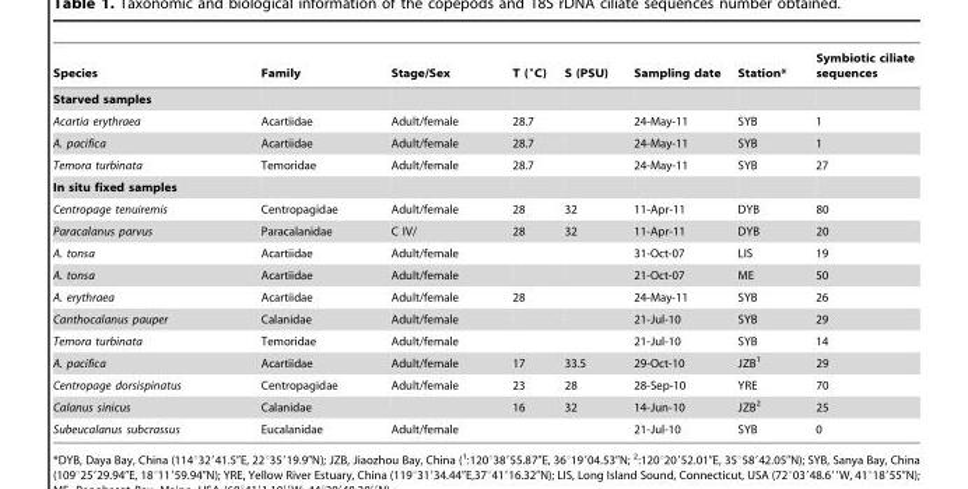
<table><thead><tr><td>Species</td><td>Family</td><td>Stage/Sex</td><td>T (°C)</td><td>S (PSU)</td><td>Sampling date</td><td>Station*</td><td>Symbiotic ciliate sequences</td></tr></thead><tbody><tr><td colspan="8">Starved samples</td></tr><tr><td>Acartia erythraea</td><td>Acartiidae</td><td>Adult/female</td><td>28.7</td><td></td><td>24-May-11</td><td>SYB</td><td>1</td></tr><tr><td>A. pacifica</td><td>Acartiidae</td><td>Adult/female</td><td>28.7</td><td></td><td>24-May-11</td><td>SYB</td><td>1</td></tr><tr><td>Temora turbinata</td><td>Temoridae</td><td>Adult/female</td><td>28.7</td><td></td><td>24-May-11</td><td>SYB</td><td>27</td></tr><tr><td colspan="8">In situ fixed samples</td></tr><tr><td>Centropage tenuiremis</td><td>Centropagidae</td><td>Adult/female</td><td>28</td><td>32</td><td>11-Apr-11</td><td>DYB</td><td>80</td></tr><tr><td>Paracalanus parvus</td><td>Paracalanidae</td><td>C IV/</td><td>28</td><td>32</td><td>11-Apr-11</td><td>DYB</td><td>20</td></tr><tr><td>A. tonsa</td><td>Acartiidae</td><td>Adult/female</td><td></td><td></td><td>31-Oct-07</td><td>LIS</td><td>19</td></tr><tr><td>A. tonsa</td><td>Acartiidae</td><td>Adult/female</td><td></td><td></td><td>21-Oct-07</td><td>ME</td><td>50</td></tr><tr><td>A. erythraea</td><td>Acartiidae</td><td>Adult/female</td><td>28</td><td></td><td>24-May-11</td><td>SYB</td><td>26</td></tr><tr><td>Canthocalanus pauper</td><td>Calanidae</td><td>Adult/female</td><td></td><td></td><td>21-Jul-10</td><td>SYB</td><td>29</td></tr><tr><td>Temora turbinata</td><td>Temoridae</td><td>Adult/female</td><td></td><td></td><td>21-Jul-10</td><td>SYB</td><td>14</td></tr><tr><td>A. pacifica</td><td>Acartiidae</td><td>Adult/female</td><td>17</td><td>33.5</td><td>29-Oct-10</td><td>JZB<sup>1</sup></td><td>29</td></tr><tr><td>Centropage dorsispinatus</td><td>Centropagidae</td><td>Adult/female</td><td>23</td><td>28</td><td>28-Sep-10</td><td>YRE</td><td>70</td></tr><tr><td>Calanus sinicus</td><td>Calanidae</td><td></td><td>16</td><td>32</td><td>14-Jun-10</td><td>JZB<sup>2</sup></td><td>25</td></tr><tr><td>Subeucalanus subcrassus</td><td>Eucalanidae</td><td>Adult/female</td><td></td><td></td><td>21-Jul-10</td><td>SYB</td><td>0</td></tr></tbody></table>